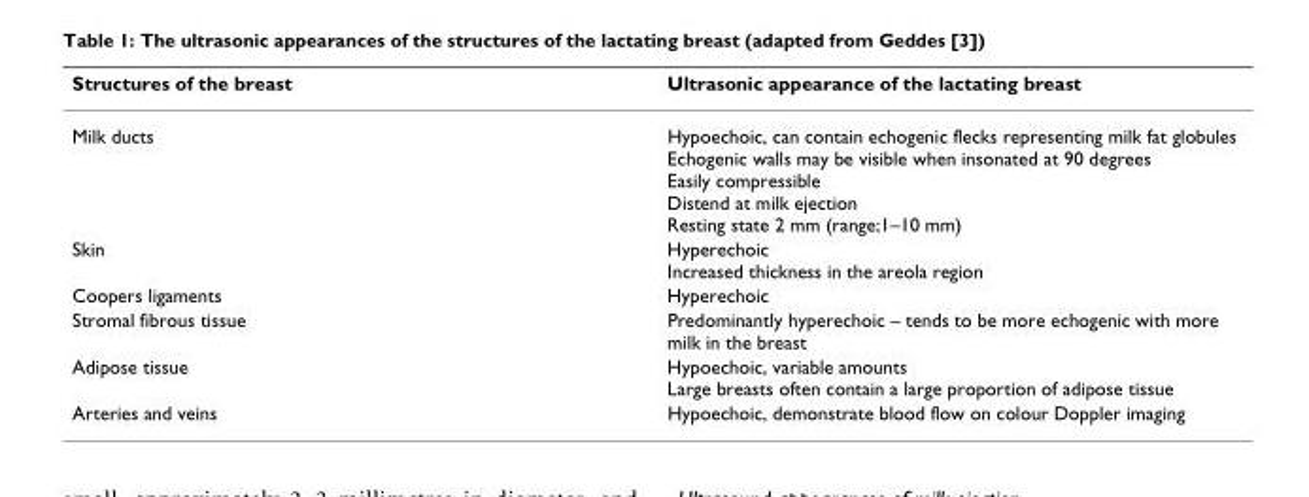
<table><thead><tr><td>Structures of the breast</td><td>Ultrasonic appearance of the lactating breast</td></tr></thead><tbody><tr><td>Milk ducts</td><td>Hypoechoic, can contain echogenic flecks representing milk fat globules Echogenic walls may be visible when insonated at 90 degrees Easily compressible Distend at milk ejection Resting state 2 mm (range;1–10 mm)</td></tr><tr><td>Skin</td><td>Hyperechoic Increased thickness in the areola region</td></tr><tr><td>Coopers ligaments</td><td>Hyperechoic</td></tr><tr><td>Stromal fibrous tissue</td><td>Predominantly hyperechoic – tends to be more echogenic with more milk in the breast</td></tr><tr><td>Adipose tissue</td><td>Hypoechoic, variable amounts Large breasts often contain a large proportion of adipose tissue</td></tr><tr><td>Arteries and veins</td><td>Hypoechoic, demonstrate blood flow on colour Doppler imaging</td></tr></tbody></table>